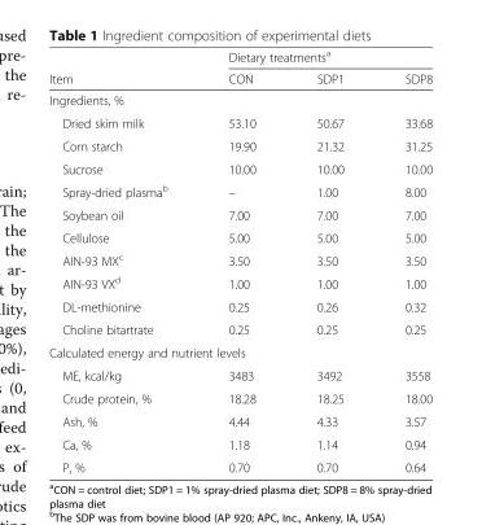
<table><thead><tr><td rowspan="2">Item</td><td colspan="3">Dietary treatments<sup>a</sup></td></tr><tr><td>CON</td><td>SDP1</td><td>SDP8</td></tr></thead><tbody><tr><td colspan="4">Ingredients, %</td></tr><tr><td>Dried skim milk</td><td>53.10</td><td>50.67</td><td>33.68</td></tr><tr><td>Corn starch</td><td>19.90</td><td>21.32</td><td>31.25</td></tr><tr><td>Sucrose</td><td>10.00</td><td>10.00</td><td>10.00</td></tr><tr><td>Spray-dried plasma<sup>b</sup></td><td>–</td><td>1.00</td><td>8.00</td></tr><tr><td>Soybean oil</td><td>7.00</td><td>7.00</td><td>7.00</td></tr><tr><td>Cellulose</td><td>5.00</td><td>5.00</td><td>5.00</td></tr><tr><td>AIN-93 MX<sup>c</sup></td><td>3.50</td><td>3.50</td><td>3.50</td></tr><tr><td>AIN-93 VX<sup>d</sup></td><td>1.00</td><td>1.00</td><td>1.00</td></tr><tr><td>DL-methionine</td><td>0.25</td><td>0.26</td><td>0.32</td></tr><tr><td>Choline bitartrate</td><td>0.25</td><td>0.25</td><td>0.25</td></tr><tr><td colspan="4">Calculated energy and nutrient levels</td></tr><tr><td>ME, kcal/kg</td><td>3483</td><td>3492</td><td>3558</td></tr><tr><td>Crude protein, %</td><td>18.28</td><td>18.25</td><td>18.00</td></tr><tr><td>Ash, %</td><td>4.44</td><td>4.33</td><td>3.57</td></tr><tr><td>Ca, %</td><td>1.18</td><td>1.14</td><td>0.94</td></tr><tr><td>P, %</td><td>0.70</td><td>0.70</td><td>0.64</td></tr></tbody></table>